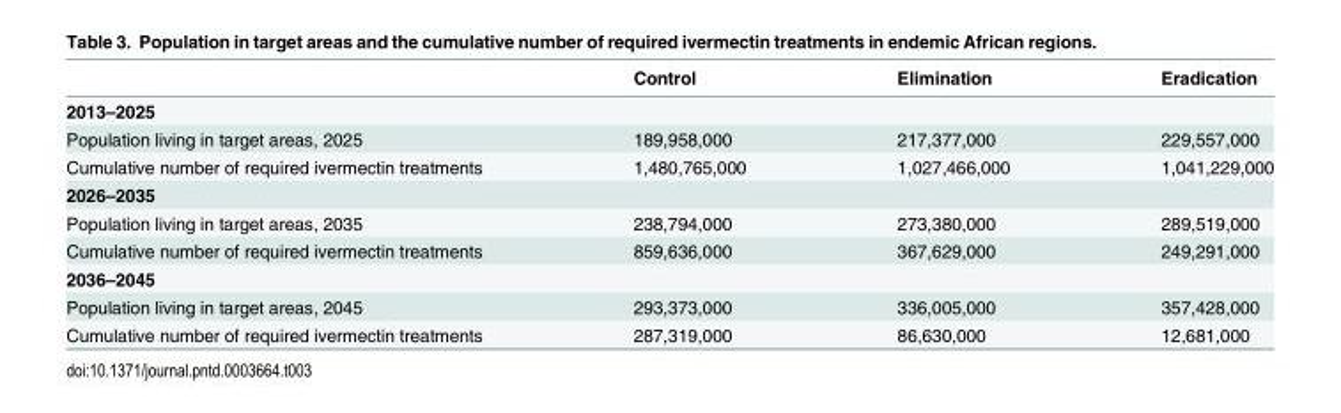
<table><thead><tr><td></td><td>Control</td><td>Elimination</td><td>Eradication</td></tr></thead><tbody><tr><td colspan="4">2013–2025</td></tr><tr><td>Population living in target areas, 2025</td><td>189,958,000</td><td>217,377,000</td><td>229,557,000</td></tr><tr><td>Cumulative number of required ivermectin treatments</td><td>1,480,765,000</td><td>1,027,466,000</td><td>1,041,229,000</td></tr><tr><td colspan="4">2026–2035</td></tr><tr><td>Population living in target areas, 2035</td><td>238,794,000</td><td>273,380,000</td><td>289,519,000</td></tr><tr><td>Cumulative number of required ivermectin treatments</td><td>859,636,000</td><td>367,629,000</td><td>249,291,000</td></tr><tr><td colspan="4">2036–2045</td></tr><tr><td>Population living in target areas, 2045</td><td>293,373,000</td><td>336,005,000</td><td>357,428,000</td></tr><tr><td>Cumulative number of required ivermectin treatments</td><td>287,319,000</td><td>86,630,000</td><td>12,681,000</td></tr></tbody></table>